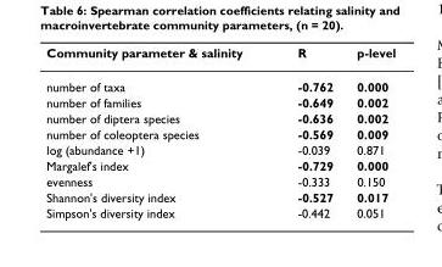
<table><thead><tr><td>Community parameter &amp; salinity</td><td>R</td><td>p-level</td></tr></thead><tbody><tr><td>number of taxa</td><td>-0.762</td><td>0.000</td></tr><tr><td>number of families</td><td>-0.649</td><td>0.002</td></tr><tr><td>number of diptera species</td><td>-0.636</td><td>0.002</td></tr><tr><td>number of coleoptera species</td><td>-0.569</td><td>0.009</td></tr><tr><td>log (abundance +1)</td><td>-0.039</td><td>0.871</td></tr><tr><td>Margalef&#x27;s index</td><td>-0.729</td><td>0.000</td></tr><tr><td>evenness</td><td>-0.333</td><td>0.150</td></tr><tr><td>Shannon&#x27;s diversity index</td><td>-0.527</td><td>0.017</td></tr><tr><td>Simpson&#x27;s diversity index</td><td>-0.442</td><td>0.051</td></tr></tbody></table>